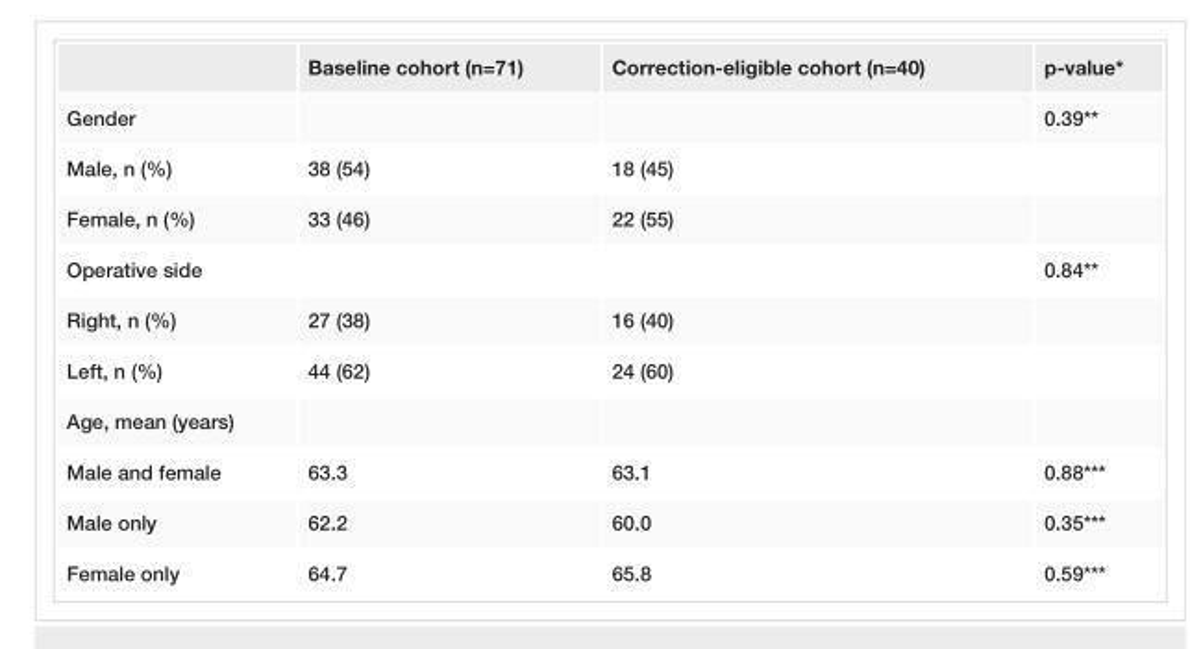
<table><thead><tr><td></td><td>Baseline cohort (n=71)</td><td>Correction-eligible cohort (n=40)</td><td>p-value*</td></tr></thead><tbody><tr><td>Gender</td><td></td><td></td><td>0.39**</td></tr><tr><td>Male, n (%)</td><td>38 (54)</td><td>18 (45)</td><td></td></tr><tr><td>Female, n (%)</td><td>33 (46)</td><td>22 (55)</td><td></td></tr><tr><td>Operative side</td><td></td><td></td><td>0.84**</td></tr><tr><td>Right, n (%)</td><td>27 (38)</td><td>16 (40)</td><td></td></tr><tr><td>Left, n (%)</td><td>44 (62)</td><td>24 (60)</td><td></td></tr><tr><td colspan="4">Age, mean (years)</td></tr><tr><td>Male and female</td><td>63.3</td><td>63.1</td><td>0.88***</td></tr><tr><td>Male only</td><td>62.2</td><td>60.0</td><td>0.35***</td></tr><tr><td>Female only</td><td>64.7</td><td>65.8</td><td>0.59***</td></tr></tbody></table>